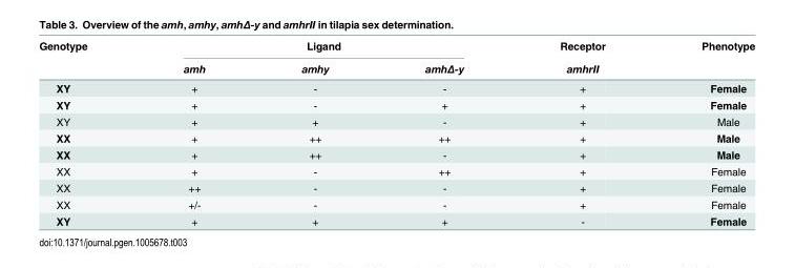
<table><thead><tr><td rowspan="2">Genotype</td><td colspan="3">Ligand</td><td rowspan="2">Receptor amhrII</td><td rowspan="2">Phenotype</td></tr><tr><td>amh</td><td>amhy</td><td>amhΔ-y</td></tr></thead><tbody><tr><td>XY</td><td>+</td><td>-</td><td>-</td><td>+</td><td>Female</td></tr><tr><td>XY</td><td>+</td><td>-</td><td>+</td><td>+</td><td>Female</td></tr><tr><td>XY</td><td>+</td><td>+</td><td>-</td><td>+</td><td>Male</td></tr><tr><td>XX</td><td>+</td><td>++</td><td>++</td><td>+</td><td>Male</td></tr><tr><td>XX</td><td>+</td><td>++</td><td>-</td><td>+</td><td>Male</td></tr><tr><td>XX</td><td>+</td><td>-</td><td>++</td><td>+</td><td>Female</td></tr><tr><td>XX</td><td>++</td><td>-</td><td>-</td><td>+</td><td>Female</td></tr><tr><td>XX</td><td>+/-</td><td>-</td><td>-</td><td>+</td><td>Female</td></tr><tr><td>XY</td><td>+</td><td>+</td><td>+</td><td>-</td><td>Female</td></tr></tbody></table>